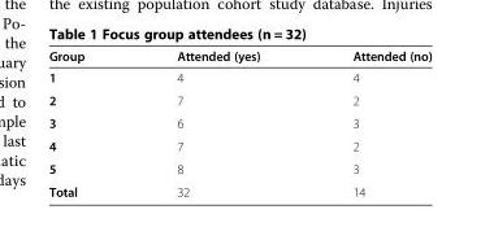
<table><thead><tr><td>Group</td><td>Attended (yes)</td><td>Attended (no)</td></tr></thead><tbody><tr><td>1</td><td>4</td><td>4</td></tr><tr><td>2</td><td>7</td><td>2</td></tr><tr><td>3</td><td>6</td><td>3</td></tr><tr><td>4</td><td>7</td><td>2</td></tr><tr><td>5</td><td>8</td><td>3</td></tr><tr><td>Total</td><td>32</td><td>14</td></tr></tbody></table>